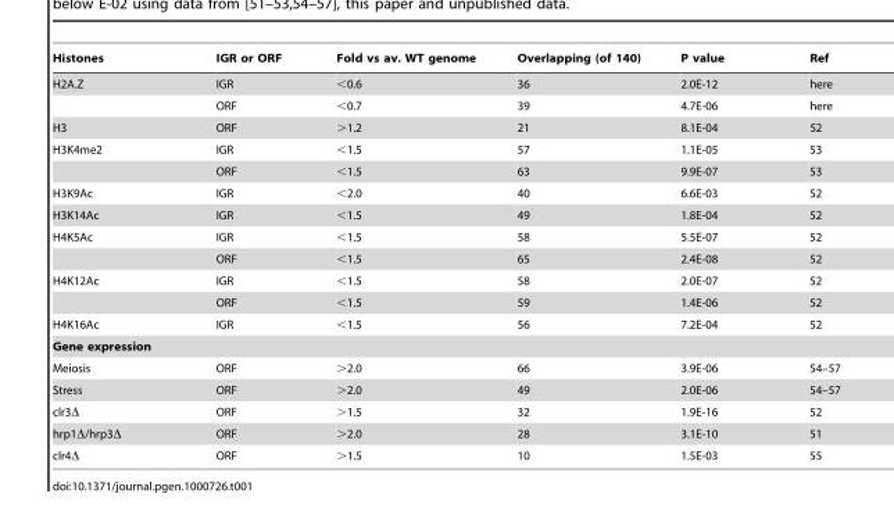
<table><thead><tr><td>Histones</td><td>IGR or ORF</td><td>Fold vs av. WT genome</td><td>Overlapping (of 140)</td><td>P value</td><td>Ref</td></tr></thead><tbody><tr><td rowspan="2">H2A.Z</td><td>IGR</td><td>&lt;0.6</td><td>36</td><td>2.0E-12</td><td>here</td></tr><tr><td>ORF</td><td>&lt;0.7</td><td>39</td><td>4.7E-06</td><td>here</td></tr><tr><td>H3</td><td>ORF</td><td>&gt;1.2</td><td>21</td><td>8.1E-04</td><td>52</td></tr><tr><td rowspan="2">H3K4me2</td><td>IGR</td><td>&lt;1.5</td><td>57</td><td>1.1E-05</td><td>53</td></tr><tr><td>ORF</td><td>&lt;1.5</td><td>63</td><td>9.9E-07</td><td>53</td></tr><tr><td>H3K9Ac</td><td>IGR</td><td>&lt;2.0</td><td>40</td><td>6.6E-03</td><td>52</td></tr><tr><td>H3K14Ac</td><td>IGR</td><td>&lt;1.5</td><td>49</td><td>1.8E-04</td><td>52</td></tr><tr><td rowspan="2">H4K5Ac</td><td>IGR</td><td>&lt;1.5</td><td>58</td><td>5.5E-07</td><td>52</td></tr><tr><td>ORF</td><td>&lt;1.5</td><td>65</td><td>2.4E-08</td><td>52</td></tr><tr><td rowspan="2">H4K12Ac</td><td>IGR</td><td>&lt;1.5</td><td>58</td><td>2.0E-07</td><td>52</td></tr><tr><td>ORF</td><td>&lt;1.5</td><td>59</td><td>1.4E-06</td><td>52</td></tr><tr><td>H4K16Ac</td><td>IGR</td><td>&lt;1.5</td><td>56</td><td>7.2E-04</td><td>52</td></tr><tr><td colspan="6">Gene expression</td></tr><tr><td>Meiosis</td><td>ORF</td><td>&gt;2.0</td><td>66</td><td>3.9E-06</td><td>54–57</td></tr><tr><td>Stress</td><td>ORF</td><td>&gt;2.0</td><td>49</td><td>2.0E-06</td><td>54–57</td></tr><tr><td>clr3Δ</td><td>ORF</td><td>&gt;1.5</td><td>32</td><td>1.9E-16</td><td>52</td></tr><tr><td>hrp1Δ/hrp3Δ</td><td>ORF</td><td>&gt;2.0</td><td>28</td><td>3.1E-10</td><td>51</td></tr><tr><td>clr4Δ</td><td>ORF</td><td>&gt;1.5</td><td>10</td><td>1.5E-03</td><td>55</td></tr></tbody></table>